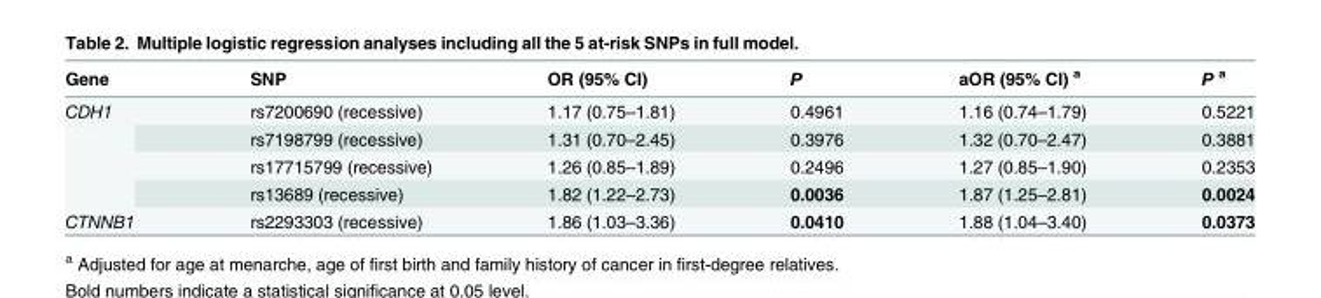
<table><thead><tr><td>Gene</td><td>SNP</td><td>OR (95% CI)</td><td>P</td><td>aOR (95% CI) <sup>a</sup></td><td>P <sup>a</sup></td></tr></thead><tbody><tr><td rowspan="4">CDH1</td><td>rs7200690 (recessive)</td><td>1.17 (0.75–1.81)</td><td>0.4961</td><td>1.16 (0.74–1.79)</td><td>0.5221</td></tr><tr><td>rs7198799 (recessive)</td><td>1.31 (0.70–2.45)</td><td>0.3976</td><td>1.32 (0.70–2.47)</td><td>0.3881</td></tr><tr><td>rs17715799 (recessive)</td><td>1.26 (0.85–1.89)</td><td>0.2496</td><td>1.27 (0.85–1.90)</td><td>0.2353</td></tr><tr><td>rs13689 (recessive)</td><td>1.82 (1.22–2.73)</td><td>0.0036</td><td>1.87 (1.25–2.81)</td><td>0.0024</td></tr><tr><td>CTNNB1</td><td>rs2293303 (recessive)</td><td>1.86 (1.03–3.36)</td><td>0.0410</td><td>1.88 (1.04–3.40)</td><td>0.0373</td></tr></tbody></table>